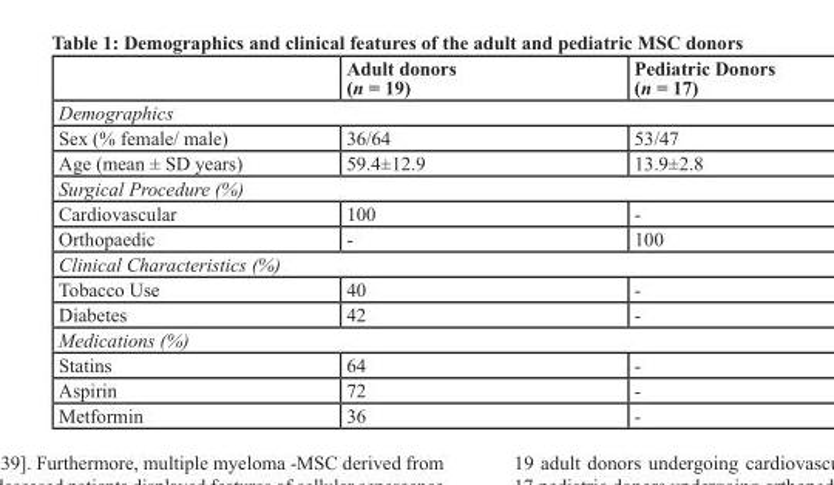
<table><thead><tr><td></td><td>Adult donors (n = 19)</td><td>Pediatric Donors (n = 17)</td></tr></thead><tbody><tr><td colspan="3">Demographics</td></tr><tr><td>Sex (% female/ male)</td><td>36/64</td><td>53/47</td></tr><tr><td>Age (mean ± SD years)</td><td>59.4±12.9</td><td>13.9±2.8</td></tr><tr><td colspan="3">Surgical Procedure (%)</td></tr><tr><td>Cardiovascular</td><td>100</td><td>-</td></tr><tr><td>Orthopaedic</td><td>-</td><td>100</td></tr><tr><td colspan="3">Clinical Characteristics (%)</td></tr><tr><td>Tobacco Use</td><td>40</td><td>-</td></tr><tr><td>Diabetes</td><td>42</td><td>-</td></tr><tr><td colspan="3">Medications (%)</td></tr><tr><td>Statins</td><td>64</td><td>-</td></tr><tr><td>Aspirin</td><td>72</td><td>-</td></tr><tr><td>Metformin</td><td>36</td><td>-</td></tr></tbody></table>